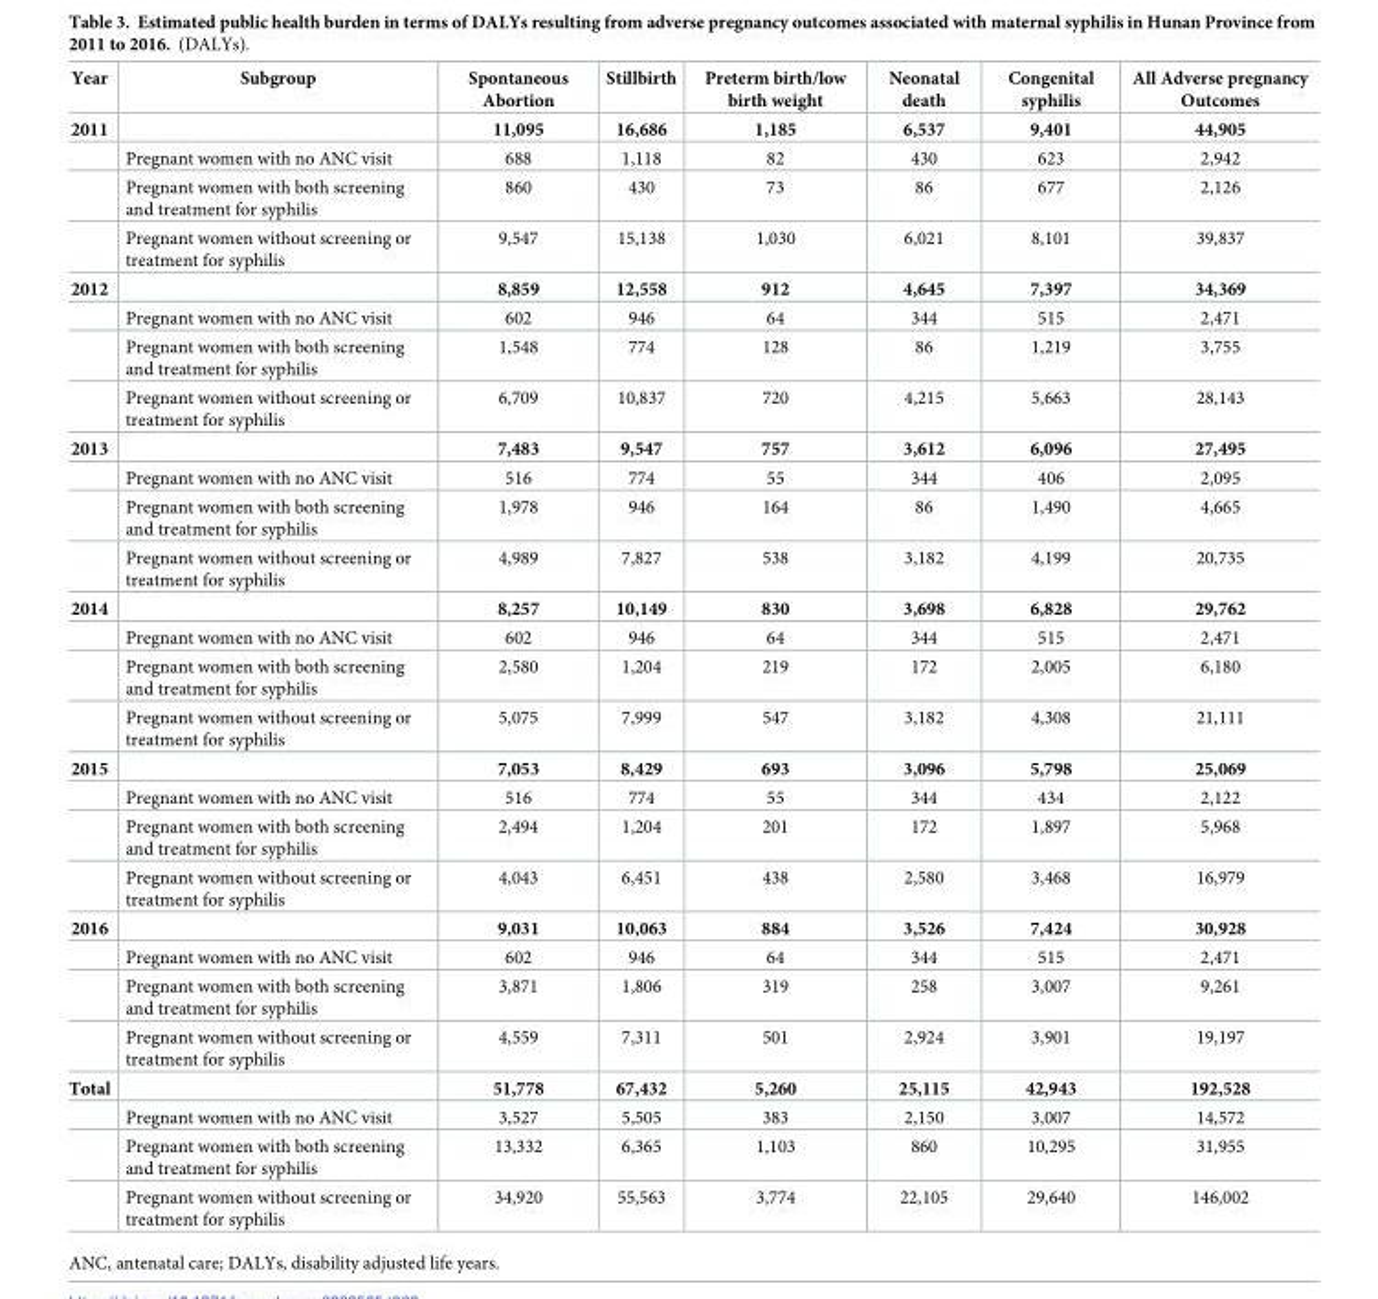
<table><thead><tr><td>Year</td><td>Subgroup</td><td>Spontaneous Abortion</td><td>Stillbirth</td><td>Preterm birth/low birth weight</td><td>Neonatal death</td><td>Congenital syphilis</td><td>All Adverse pregnancy Outcomes</td></tr></thead><tbody><tr><td rowspan="4">2011</td><td></td><td>11,095</td><td>16,686</td><td>1,185</td><td>6,537</td><td>9,401</td><td>44,905</td></tr><tr><td>Pregnant women with no ANC visit</td><td>688</td><td>1,118</td><td>82</td><td>430</td><td>623</td><td>2,942</td></tr><tr><td>Pregnant women with both screening and treatment for syphilis</td><td>860</td><td>430</td><td>73</td><td>86</td><td>677</td><td>2,126</td></tr><tr><td>Pregnant women without screening or treatment for syphilis</td><td>9,547</td><td>15,138</td><td>1,030</td><td>6,021</td><td>8,101</td><td>39,837</td></tr><tr><td rowspan="4">2012</td><td></td><td>8,859</td><td>12,558</td><td>912</td><td>4,645</td><td>7,397</td><td>34,369</td></tr><tr><td>Pregnant women with no ANC visit</td><td>602</td><td>946</td><td>64</td><td>344</td><td>515</td><td>2,471</td></tr><tr><td>Pregnant women with both screening and treatment for syphilis</td><td>1,548</td><td>774</td><td>128</td><td>86</td><td>1,219</td><td>3,755</td></tr><tr><td>Pregnant women without screening or treatment for syphilis</td><td>6,709</td><td>10,837</td><td>720</td><td>4,215</td><td>5,663</td><td>28,143</td></tr><tr><td rowspan="4">2013</td><td></td><td>7,483</td><td>9,547</td><td>757</td><td>3,612</td><td>6,096</td><td>27,495</td></tr><tr><td>Pregnant women with no ANC visit</td><td>516</td><td>774</td><td>55</td><td>344</td><td>406</td><td>2,095</td></tr><tr><td>Pregnant women with both screening and treatment for syphilis</td><td>1,978</td><td>946</td><td>164</td><td>86</td><td>1,490</td><td>4,665</td></tr><tr><td>Pregnant women without screening or treatment for syphilis</td><td>4,989</td><td>7,827</td><td>538</td><td>3,182</td><td>4,199</td><td>20,735</td></tr><tr><td rowspan="4">2014</td><td></td><td>8,257</td><td>10,149</td><td>830</td><td>3,698</td><td>6,828</td><td>29,762</td></tr><tr><td>Pregnant women with no ANC visit</td><td>602</td><td>946</td><td>64</td><td>344</td><td>515</td><td>2,471</td></tr><tr><td>Pregnant women with both screening and treatment for syphilis</td><td>2,580</td><td>1,204</td><td>219</td><td>172</td><td>2,005</td><td>6,180</td></tr><tr><td>Pregnant women without screening or treatment for syphilis</td><td>5,075</td><td>7,999</td><td>547</td><td>3,182</td><td>4,308</td><td>21,111</td></tr><tr><td rowspan="4">2015</td><td></td><td>7,053</td><td>8,429</td><td>693</td><td>3,096</td><td>5,798</td><td>25,069</td></tr><tr><td>Pregnant women with no ANC visit</td><td>516</td><td>774</td><td>55</td><td>344</td><td>434</td><td>2,122</td></tr><tr><td>Pregnant women with both screening and treatment for syphilis</td><td>2,494</td><td>1,204</td><td>201</td><td>172</td><td>1,897</td><td>5,968</td></tr><tr><td>Pregnant women without screening or treatment for syphilis</td><td>4,043</td><td>6,451</td><td>438</td><td>2,580</td><td>3,468</td><td>16,979</td></tr><tr><td rowspan="4">2016</td><td></td><td>9,031</td><td>10,063</td><td>884</td><td>3,526</td><td>7,424</td><td>30,928</td></tr><tr><td>Pregnant women with no ANC visit</td><td>602</td><td>946</td><td>64</td><td>344</td><td>515</td><td>2,471</td></tr><tr><td>Pregnant women with both screening and treatment for syphilis</td><td>3,871</td><td>1,806</td><td>319</td><td>258</td><td>3,007</td><td>9,261</td></tr><tr><td>Pregnant women without screening or treatment for syphilis</td><td>4,559</td><td>7,311</td><td>501</td><td>2,924</td><td>3,901</td><td>19,197</td></tr><tr><td rowspan="4">Total</td><td></td><td>51,778</td><td>67,432</td><td>5,260</td><td>25,115</td><td>42,943</td><td>192,528</td></tr><tr><td>Pregnant women with no ANC visit</td><td>3,527</td><td>5,505</td><td>383</td><td>2,150</td><td>3,007</td><td>14,572</td></tr><tr><td>Pregnant women with both screening and treatment for syphilis</td><td>13,332</td><td>6,365</td><td>1,103</td><td>860</td><td>10,295</td><td>31,955</td></tr><tr><td>Pregnant women without screening or treatment for syphilis</td><td>34,920</td><td>55,563</td><td>3,774</td><td>22,105</td><td>29,640</td><td>146,002</td></tr></tbody></table>